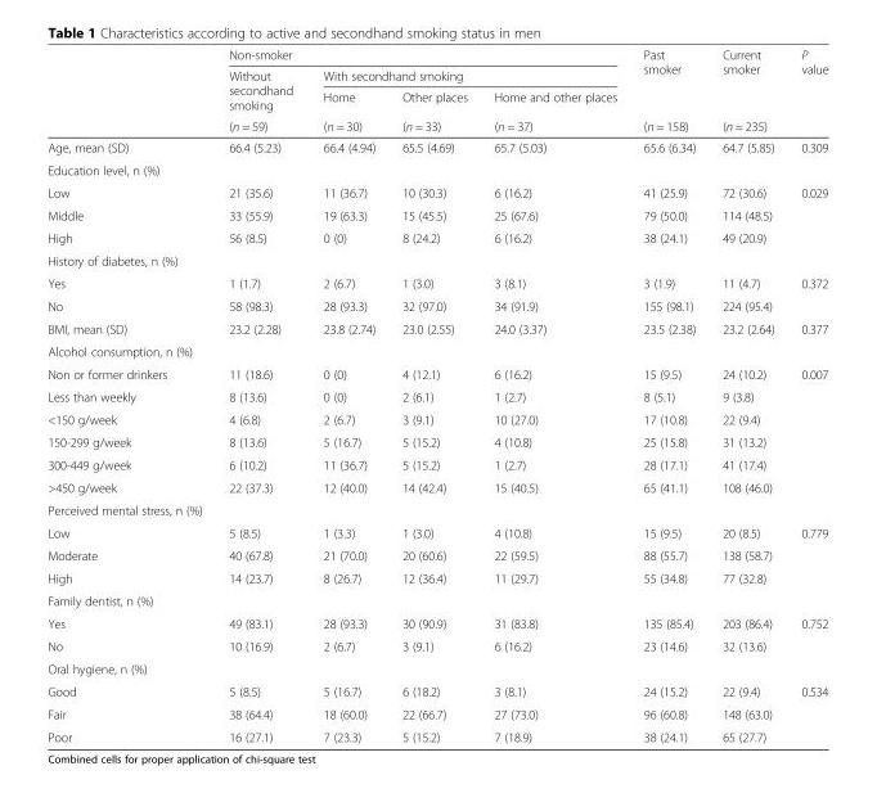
<table><thead><tr><td rowspan="4"></td><td colspan="4">Non-smoker</td><td rowspan="4">Past smoker (n = 158)</td><td rowspan="4">Current smoker (n = 235)</td><td rowspan="4">P value</td></tr><tr><td rowspan="3">Without secondhand smoking (n = 59)</td><td colspan="3">With secondhand smoking</td></tr><tr><td rowspan="2">Home (n = 30)</td><td rowspan="2">Other places (n = 33)</td><td rowspan="2">Home and other places (n = 37)</td></tr><tr></tr></thead><tbody><tr><td>Age, mean (SD)</td><td>66.4 (5.23)</td><td>66.4 (4.94)</td><td>65.5 (4.69)</td><td>65.7 (5.03)</td><td>65.6 (6.34)</td><td>64.7 (5.85)</td><td>0.309</td></tr><tr><td colspan="8">Education level, n (%)</td></tr><tr><td>Low</td><td>21 (35.6)</td><td>11 (36.7)</td><td>10 (30.3)</td><td>6 (16.2)</td><td>41 (25.9)</td><td>72 (30.6)</td><td>0.029</td></tr><tr><td>Middle</td><td>33 (55.9)</td><td>19 (63.3)</td><td>15 (45.5)</td><td>25 (67.6)</td><td>79 (50.0)</td><td>114 (48.5)</td><td></td></tr><tr><td>High</td><td>56 (8.5)</td><td>0 (0)</td><td>8 (24.2)</td><td>6 (16.2)</td><td>38 (24.1)</td><td>49 (20.9)</td><td></td></tr><tr><td colspan="8">History of diabetes, n (%)</td></tr><tr><td>Yes</td><td>1 (1.7)</td><td>2 (6.7)</td><td>1 (3.0)</td><td>3 (8.1)</td><td>3 (1.9)</td><td>11 (4.7)</td><td>0.372</td></tr><tr><td>No</td><td>58 (98.3)</td><td>28 (93.3)</td><td>32 (97.0)</td><td>34 (91.9)</td><td>155 (98.1)</td><td>224 (95.4)</td><td></td></tr><tr><td>BMI, mean (SD)</td><td>23.2 (2.28)</td><td>23.8 (2.74)</td><td>23.0 (2.55)</td><td>24.0 (3.37)</td><td>23.5 (2.38)</td><td>23.2 (2.64)</td><td>0.377</td></tr><tr><td colspan="8">Alcohol consumption, n (%)</td></tr><tr><td>Non or former drinkers</td><td>11 (18.6)</td><td>0 (0)</td><td>4 (12.1)</td><td>6 (16.2)</td><td>15 (9.5)</td><td>24 (10.2)</td><td>0.007</td></tr><tr><td>Less than weekly</td><td>8 (13.6)</td><td>0 (0)</td><td>2 (6.1)</td><td>1 (2.7)</td><td>8 (5.1)</td><td>9 (3.8)</td><td></td></tr><tr><td>&lt;150 g/week</td><td>4 (6.8)</td><td>2 (6.7)</td><td>3 (9.1)</td><td>10 (27.0)</td><td>17 (10.8)</td><td>22 (9.4)</td><td></td></tr><tr><td>150-299 g/week</td><td>8 (13.6)</td><td>5 (16.7)</td><td>5 (15.2)</td><td>4 (10.8)</td><td>25 (15.8)</td><td>31 (13.2)</td><td></td></tr><tr><td>300-449 g/week</td><td>6 (10.2)</td><td>11 (36.7)</td><td>5 (15.2)</td><td>1 (2.7)</td><td>28 (17.1)</td><td>41 (17.4)</td><td></td></tr><tr><td>&gt;450 g/week</td><td>22 (37.3)</td><td>12 (40.0)</td><td>14 (42.4)</td><td>15 (40.5)</td><td>65 (41.1)</td><td>108 (46.0)</td><td></td></tr><tr><td colspan="8">Perceived mental stress, n (%)</td></tr><tr><td>Low</td><td>5 (8.5)</td><td>1 (3.3)</td><td>1 (3.0)</td><td>4 (10.8)</td><td>15 (9.5)</td><td>20 (8.5)</td><td>0.779</td></tr><tr><td>Moderate</td><td>40 (67.8)</td><td>21 (70.0)</td><td>20 (60.6)</td><td>22 (59.5)</td><td>88 (55.7)</td><td>138 (58.7)</td><td></td></tr><tr><td>High</td><td>14 (23.7)</td><td>8 (26.7)</td><td>12 (36.4)</td><td>11 (29.7)</td><td>55 (34.8)</td><td>77 (32.8)</td><td></td></tr><tr><td colspan="8">Family dentist, n (%)</td></tr><tr><td>Yes</td><td>49 (83.1)</td><td>28 (93.3)</td><td>30 (90.9)</td><td>31 (83.8)</td><td>135 (85.4)</td><td>203 (86.4)</td><td>0.752</td></tr><tr><td>No</td><td>10 (16.9)</td><td>2 (6.7)</td><td>3 (9.1)</td><td>6 (16.2)</td><td>23 (14.6)</td><td>32 (13.6)</td><td></td></tr><tr><td colspan="8">Oral hygiene, n (%)</td></tr><tr><td>Good</td><td>5 (8.5)</td><td>5 (16.7)</td><td>6 (18.2)</td><td>3 (8.1)</td><td>24 (15.2)</td><td>22 (9.4)</td><td>0.534</td></tr><tr><td>Fair</td><td>38 (64.4)</td><td>18 (60.0)</td><td>22 (66.7)</td><td>27 (73.0)</td><td>96 (60.8)</td><td>148 (63.0)</td><td></td></tr><tr><td>Poor</td><td>16 (27.1)</td><td>7 (23.3)</td><td>5 (15.2)</td><td>7 (18.9)</td><td>38 (24.1)</td><td>65 (27.7)</td><td></td></tr></tbody></table>